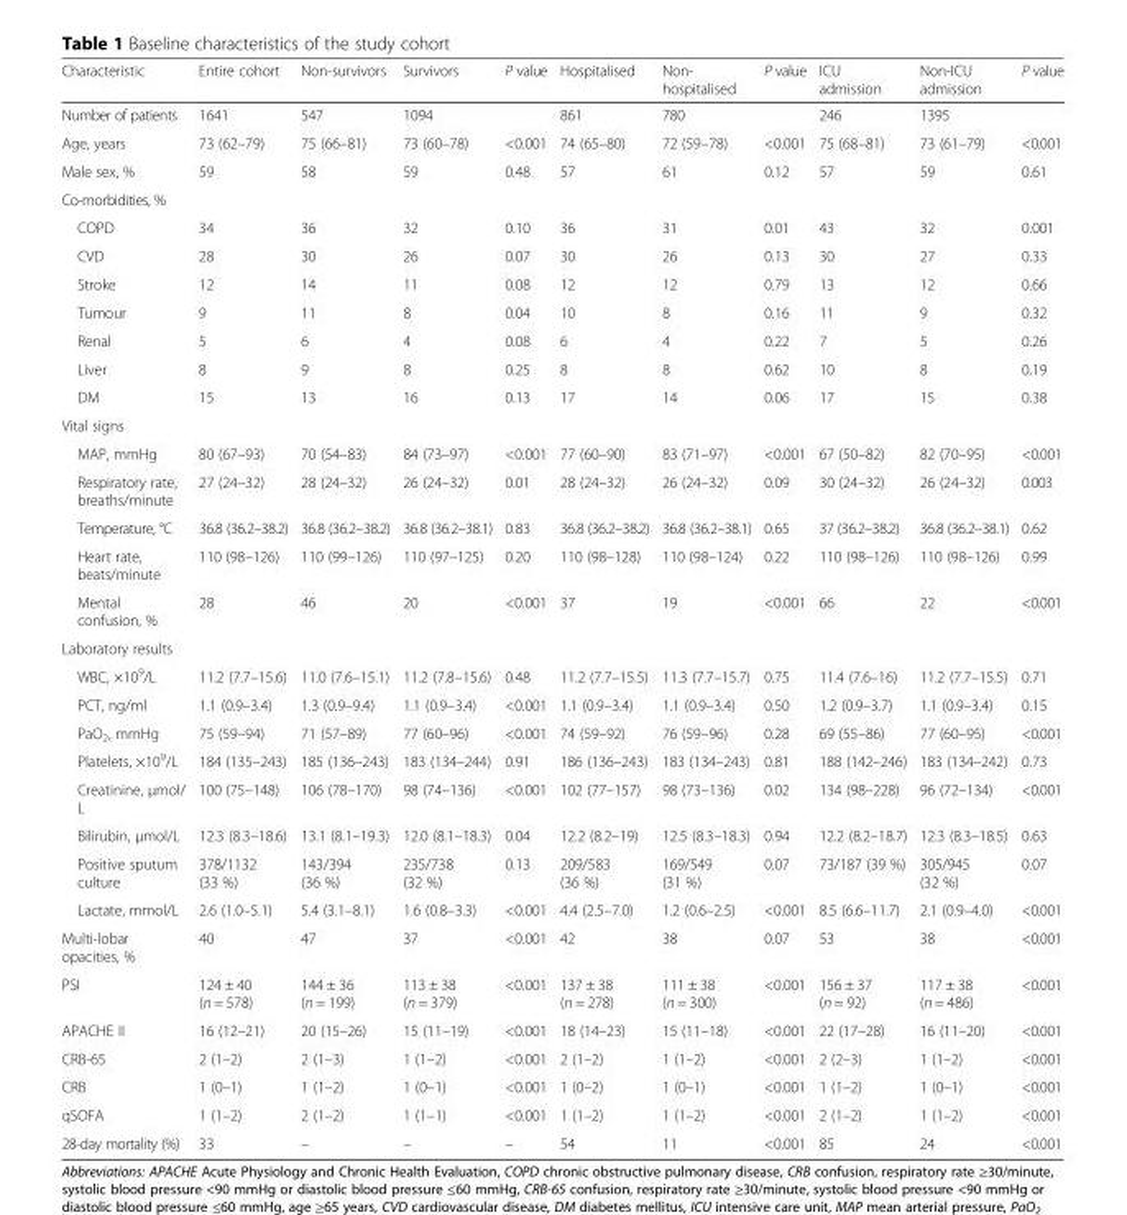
<table><thead><tr><td>Characteristic</td><td>Entire cohort</td><td>Non-survivors</td><td>Survivors</td><td>P value</td><td>Hospitalised</td><td>Non- hospitalised</td><td>P value</td><td>ICU admission</td><td>Non-ICU admission</td><td>P value</td></tr></thead><tbody><tr><td>Number of patients</td><td>1641</td><td>547</td><td>1094</td><td></td><td>861</td><td>780</td><td></td><td>246</td><td>1395</td><td></td></tr><tr><td>Age, years</td><td>73 (62–79)</td><td>75 (66–81)</td><td>73 (60–78)</td><td>&lt;0.001</td><td>74 (65–80)</td><td>72 (59–78)</td><td>&lt;0.001</td><td>75 (68–81)</td><td>73 (61–79)</td><td>&lt;0.001</td></tr><tr><td>Male sex, %</td><td>59</td><td>58</td><td>59</td><td>0.48</td><td>57</td><td>61</td><td>0.12</td><td>57</td><td>59</td><td>0.61</td></tr><tr><td colspan="11">Co-morbidities, %</td></tr><tr><td>COPD</td><td>34</td><td>36</td><td>32</td><td>0.10</td><td>36</td><td>31</td><td>0.01</td><td>43</td><td>32</td><td>0.001</td></tr><tr><td>CVD</td><td>28</td><td>30</td><td>26</td><td>0.07</td><td>30</td><td>26</td><td>0.13</td><td>30</td><td>27</td><td>0.33</td></tr><tr><td>Stroke</td><td>12</td><td>14</td><td>11</td><td>0.08</td><td>12</td><td>12</td><td>0.79</td><td>13</td><td>12</td><td>0.66</td></tr><tr><td>Tumour</td><td>9</td><td>11</td><td>8</td><td>0.04</td><td>10</td><td>8</td><td>0.16</td><td>11</td><td>9</td><td>0.32</td></tr><tr><td>Renal</td><td>5</td><td>6</td><td>4</td><td>0.08</td><td>6</td><td>4</td><td>0.22</td><td>7</td><td>5</td><td>0.26</td></tr><tr><td>Liver</td><td>8</td><td>9</td><td>8</td><td>0.25</td><td>8</td><td>8</td><td>0.62</td><td>10</td><td>8</td><td>0.19</td></tr><tr><td>DM</td><td>15</td><td>13</td><td>16</td><td>0.13</td><td>17</td><td>14</td><td>0.06</td><td>17</td><td>15</td><td>0.38</td></tr><tr><td colspan="11">Vital signs</td></tr><tr><td>MAP, mmHg</td><td>80 (67–93)</td><td>70 (54–83)</td><td>84 (73–97)</td><td>&lt;0.001</td><td>77 (60–90)</td><td>83 (71–97)</td><td>&lt;0.001</td><td>67 (50–82)</td><td>82 (70–95)</td><td>&lt;0.001</td></tr><tr><td>Respiratory rate, breaths/minute</td><td>27 (24–32)</td><td>28 (24–32)</td><td>26 (24–32)</td><td>0.01</td><td>28 (24–32)</td><td>26 (24–32)</td><td>0.09</td><td>30 (24–32)</td><td>26 (24–32)</td><td>0.003</td></tr><tr><td>Temperature, °C</td><td>36.8 (36.2–38.2)</td><td>36.8 (36.2–38.2)</td><td>36.8 (36.2–38.1)</td><td>0.83</td><td>36.8 (36.2–38.2)</td><td>36.8 (36.2–38.1)</td><td>0.65</td><td>37 (36.2–38.2)</td><td>36.8 (36.2–38.1)</td><td>0.62</td></tr><tr><td>Heart rate, beats/minute</td><td>110 (98–126)</td><td>110 (99–126)</td><td>110 (97–125)</td><td>0.20</td><td>110 (98–128)</td><td>110 (98–124)</td><td>0.22</td><td>110 (98–126)</td><td>110 (98–126)</td><td>0.99</td></tr><tr><td>Mental confusion, %</td><td>28</td><td>46</td><td>20</td><td>&lt;0.001</td><td>37</td><td>19</td><td>&lt;0.001</td><td>66</td><td>22</td><td>&lt;0.001</td></tr><tr><td colspan="11">Laboratory results</td></tr><tr><td>WBC, ×10<sup>9</sup>/L</td><td>11.2 (7.7–15.6)</td><td>11.0 (7.6–15.1)</td><td>11.2 (7.8–15.6)</td><td>0.48</td><td>11.2 (7.7–15.5)</td><td>11.3 (7.7–15.7)</td><td>0.75</td><td>11.4 (7.6–16)</td><td>11.2 (7.7–15.5)</td><td>0.71</td></tr><tr><td>PCT, ng/ml</td><td>1.1 (0.9–3.4)</td><td>1.3 (0.9–9.4)</td><td>1.1 (0.9–3.4)</td><td>&lt;0.001</td><td>1.1 (0.9–3.4)</td><td>1.1 (0.9–3.4)</td><td>0.50</td><td>1.2 (0.9–3.7)</td><td>1.1 (0.9–3.4)</td><td>0.15</td></tr><tr><td>PaO<sub>2</sub>, mmHg</td><td>75 (59–94)</td><td>71 (57–89)</td><td>77 (60–96)</td><td>&lt;0.001</td><td>74 (59–92)</td><td>76 (59–96)</td><td>0.28</td><td>69 (55–86)</td><td>77 (60–95)</td><td>&lt;0.001</td></tr><tr><td>Platelets, ×10<sup>9</sup>/L</td><td>184 (135–243)</td><td>185 (136–243)</td><td>183 (134–244)</td><td>0.91</td><td>186 (136–243)</td><td>183 (134–243)</td><td>0.81</td><td>188 (142–246)</td><td>183 (134–242)</td><td>0.73</td></tr><tr><td>Creatinine, μmol/ L</td><td>100 (75–148)</td><td>106 (78–170)</td><td>98 (74–136)</td><td>&lt;0.001</td><td>102 (77–157)</td><td>98 (73–136)</td><td>0.02</td><td>134 (98–228)</td><td>96 (72–134)</td><td>&lt;0.001</td></tr><tr><td>Bilirubin, μmol/L</td><td>12.3 (8.3–18.6)</td><td>13.1 (8.1–19.3)</td><td>12.0 (8.1–18.3)</td><td>0.04</td><td>12.2 (8.2–19)</td><td>12.5 (8.3–18.3)</td><td>0.94</td><td>12.2 (8.2–18.7)</td><td>12.3 (8.3–18.5)</td><td>0.63</td></tr><tr><td>Positive sputum culture</td><td>378/1132 (33 %)</td><td>143/394 (36 %)</td><td>235/738 (32 %)</td><td>0.13</td><td>209/583 (36 %)</td><td>169/549 (31 %)</td><td>0.07</td><td>73/187 (39 %)</td><td>305/945 (32 %)</td><td>0.07</td></tr><tr><td>Lactate, mmol/L</td><td>2.6 (1.0–5.1)</td><td>5.4 (3.1–8.1)</td><td>1.6 (0.8–3.3)</td><td>&lt;0.001</td><td>4.4 (2.5–7.0)</td><td>1.2 (0.6–2.5)</td><td>&lt;0.001</td><td>8.5 (6.6–11.7)</td><td>2.1 (0.9–4.0)</td><td>&lt;0.001</td></tr><tr><td>Multi-lobar opacities, %</td><td>40</td><td>47</td><td>37</td><td>&lt;0.001</td><td>42</td><td>38</td><td>0.07</td><td>53</td><td>38</td><td>&lt;0.001</td></tr><tr><td>PSI</td><td>124 ± 40 (n = 578)</td><td>144 ± 36 (n = 199)</td><td>113 ± 38 (n = 379)</td><td>&lt;0.001</td><td>137 ± 38 (n = 278)</td><td>111 ± 38 (n = 300)</td><td>&lt;0.001</td><td>156 ± 37 (n = 92)</td><td>117 ± 38 (n = 486)</td><td>&lt;0.001</td></tr><tr><td>APACHE II</td><td>16 (12–21)</td><td>20 (15–26)</td><td>15 (11–19)</td><td>&lt;0.001</td><td>18 (14–23)</td><td>15 (11–18)</td><td>&lt;0.001</td><td>22 (17–28)</td><td>16 (11–20)</td><td>&lt;0.001</td></tr><tr><td>CRB-65</td><td>2 (1–2)</td><td>2 (1–3)</td><td>1 (1–2)</td><td>&lt;0.001</td><td>2 (1–2)</td><td>1 (1–2)</td><td>&lt;0.001</td><td>2 (2–3)</td><td>1 (1–2)</td><td>&lt;0.001</td></tr><tr><td>CRB</td><td>1 (0–1)</td><td>1 (1–2)</td><td>1 (0–1)</td><td>&lt;0.001</td><td>1 (0–2)</td><td>1 (0–1)</td><td>&lt;0.001</td><td>1 (1–2)</td><td>1 (0–1)</td><td>&lt;0.001</td></tr><tr><td>qSOFA</td><td>1 (1–2)</td><td>2 (1–2)</td><td>1 (1–1)</td><td>&lt;0.001</td><td>1 (1–2)</td><td>1 (1–2)</td><td>&lt;0.001</td><td>2 (1–2)</td><td>1 (1–2)</td><td>&lt;0.001</td></tr><tr><td>28-day mortality (%)</td><td>33</td><td>–</td><td>–</td><td>–</td><td>54</td><td>11</td><td>&lt;0.001</td><td>85</td><td>24</td><td>&lt;0.001</td></tr></tbody></table>